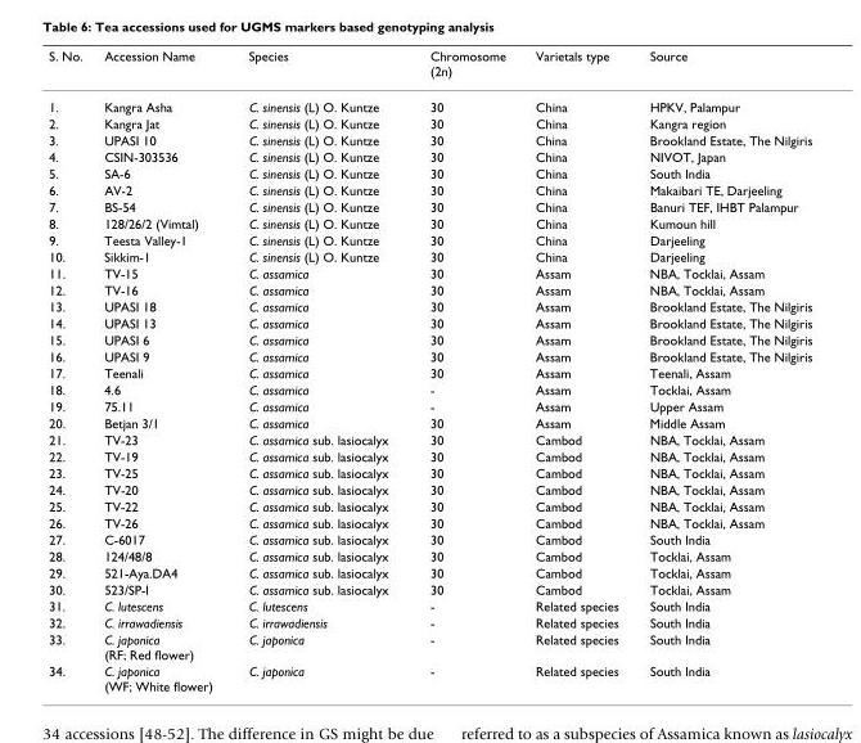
<table><thead><tr><td>S. No.</td><td>Accession Name</td><td>Species</td><td>Chromosome (2n)</td><td>Varietals type</td><td>Source</td></tr></thead><tbody><tr><td>1.</td><td>Kangra Asha</td><td>C. sinensis (L) O. Kuntze</td><td>30</td><td>China</td><td>HPKV, Palampur</td></tr><tr><td>2.</td><td>Kangra Jat</td><td>C. sinensis (L) O. Kuntze</td><td>30</td><td>China</td><td>Kangra region</td></tr><tr><td>3.</td><td>UPASI 10</td><td>C. sinensis (L) O. Kuntze</td><td>30</td><td>China</td><td>Brookland Estate, The Nilgiris</td></tr><tr><td>4.</td><td>CSIN-303536</td><td>C. sinensis (L) O. Kuntze</td><td>30</td><td>China</td><td>NIVOT, Japan</td></tr><tr><td>5.</td><td>SA-6</td><td>C. sinensis (L) O. Kuntze</td><td>30</td><td>China</td><td>South India</td></tr><tr><td>6.</td><td>AV-2</td><td>C. sinensis (L) O. Kuntze</td><td>30</td><td>China</td><td>Makaibari TE, Darjeeling</td></tr><tr><td>7.</td><td>BS-54</td><td>C. sinensis (L) O. Kuntze</td><td>30</td><td>China</td><td>Banuri TEF, IHBT Palampur</td></tr><tr><td>8.</td><td>128/26/2 (Vimtal)</td><td>C. sinensis (L) O. Kuntze</td><td>30</td><td>China</td><td>Kumoun hill</td></tr><tr><td>9.</td><td>Teesta Valley-1</td><td>C. sinensis (L) O. Kuntze</td><td>30</td><td>China</td><td>Darjeeling</td></tr><tr><td>10.</td><td>Sikkim-1</td><td>C. sinensis (L) O. Kuntze</td><td>30</td><td>China</td><td>Darjeeling</td></tr><tr><td>11.</td><td>TV-15</td><td>C. assamica</td><td>30</td><td>Assam</td><td>NBA, Tocklai, Assam</td></tr><tr><td>12.</td><td>TV-16</td><td>C. assamica</td><td>30</td><td>Assam</td><td>NBA, Tocklai, Assam</td></tr><tr><td>13.</td><td>UPASI 18</td><td>C. assamica</td><td>30</td><td>Assam</td><td>Brookland Estate, The Nilgiris</td></tr><tr><td>14.</td><td>UPASI 13</td><td>C. assamica</td><td>30</td><td>Assam</td><td>Brookland Estate, The Nilgiris</td></tr><tr><td>15.</td><td>UPASI 6</td><td>C. assamica</td><td>30</td><td>Assam</td><td>Brookland Estate, The Nilgiris</td></tr><tr><td>16.</td><td>UPASI 9</td><td>C. assamica</td><td>30</td><td>Assam</td><td>Brookland Estate, The Nilgiris</td></tr><tr><td>17.</td><td>Teenali</td><td>C. assamica</td><td>30</td><td>Assam</td><td>Teenali, Assam</td></tr><tr><td>18.</td><td>4.6</td><td>C. assamica</td><td>-</td><td>Assam</td><td>Tocklai, Assam</td></tr><tr><td>19.</td><td>75.11</td><td>C. assamica</td><td>-</td><td>Assam</td><td>Upper Assam</td></tr><tr><td>20.</td><td>Betjan 3/1</td><td>C. assamica</td><td>30</td><td>Assam</td><td>Middle Assam</td></tr><tr><td>21.</td><td>TV-23</td><td>C. assamica sub. lasiocalyx</td><td>30</td><td>Cambod</td><td>NBA, Tocklai, Assam</td></tr><tr><td>22.</td><td>TV-19</td><td>C. assamica sub. lasiocalyx</td><td>30</td><td>Cambod</td><td>NBA, Tocklai, Assam</td></tr><tr><td>23.</td><td>TV-25</td><td>C. assamica sub. lasiocalyx</td><td>30</td><td>Cambod</td><td>NBA, Tocklai, Assam</td></tr><tr><td>24.</td><td>TV-20</td><td>C. assamica sub. lasiocalyx</td><td>30</td><td>Cambod</td><td>NBA, Tocklai, Assam</td></tr><tr><td>25.</td><td>TV-22</td><td>C. assamica sub. lasiocalyx</td><td>30</td><td>Cambod</td><td>NBA, Tocklai, Assam</td></tr><tr><td>26.</td><td>TV-26</td><td>C. assamica sub. lasiocalyx</td><td>30</td><td>Cambod</td><td>NBA, Tocklai, Assam</td></tr><tr><td>27.</td><td>C-6017</td><td>C. assamica sub. lasiocalyx</td><td>30</td><td>Cambod</td><td>South India</td></tr><tr><td>28.</td><td>124/48/8</td><td>C. assamica sub. lasiocalyx</td><td>30</td><td>Cambod</td><td>Tocklai, Assam</td></tr><tr><td>29.</td><td>521-Aya.DA4</td><td>C. assamica sub. lasiocalyx</td><td>30</td><td>Cambod</td><td>Tocklai, Assam</td></tr><tr><td>30.</td><td>523/SP-I</td><td>C. assamica sub. lasiocalyx</td><td>30</td><td>Cambod</td><td>Tocklai, Assam</td></tr><tr><td>31.</td><td>C. lutescens</td><td>C. lutescens</td><td>-</td><td>Related species</td><td>South India</td></tr><tr><td>32.</td><td>C. irrawadiensis</td><td>C. irrawadiensis</td><td>-</td><td>Related species</td><td>South India</td></tr><tr><td>33.</td><td>C. japonica (RF; Red flower)</td><td>C. japonica</td><td>-</td><td>Related species</td><td>South India</td></tr><tr><td>34.</td><td>C. japonica (WF; White flower)</td><td>C. japonica</td><td>-</td><td>Related species</td><td>South India</td></tr></tbody></table>